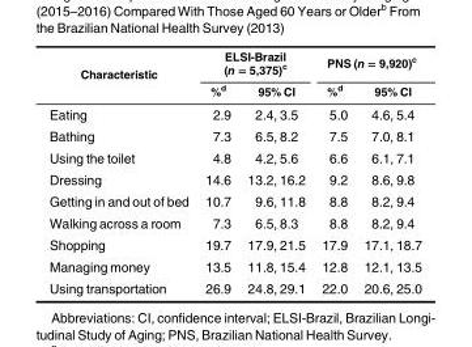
<table><thead><tr><td rowspan="2">Characteristic</td><td colspan="2">ELSI-Brazil (n = 5,375)<sup>c</sup></td><td colspan="2">PNS (n = 9,920)<sup>c</sup></td></tr><tr><td>%<sup>d</sup></td><td>95% CI</td><td>%<sup>d</sup></td><td>95% CI</td></tr></thead><tbody><tr><td>Eating</td><td>2.9</td><td>2.4, 3.5</td><td>5.0</td><td>4.6, 5.4</td></tr><tr><td>Bathing</td><td>7.3</td><td>6.5, 8.2</td><td>7.5</td><td>7.0, 8.1</td></tr><tr><td>Using the toilet</td><td>4.8</td><td>4.2, 5.6</td><td>6.6</td><td>6.1, 7.1</td></tr><tr><td>Dressing</td><td>14.6</td><td>13.2, 16.2</td><td>9.2</td><td>8.6, 9.8</td></tr><tr><td>Getting in and out of bed</td><td>10.7</td><td>9.6, 11.8</td><td>8.8</td><td>8.2, 9.4</td></tr><tr><td>Walking across a room</td><td>7.3</td><td>6.5, 8.3</td><td>8.8</td><td>8.2, 9.4</td></tr><tr><td>Shopping</td><td>19.7</td><td>17.9, 21.5</td><td>17.9</td><td>17.1, 18.7</td></tr><tr><td>Managing money</td><td>13.5</td><td>11.8, 15.4</td><td>12.8</td><td>12.1, 13.5</td></tr><tr><td>Using transportation</td><td>26.9</td><td>24.8, 29.1</td><td>22.0</td><td>20.6, 25.0</td></tr></tbody></table>